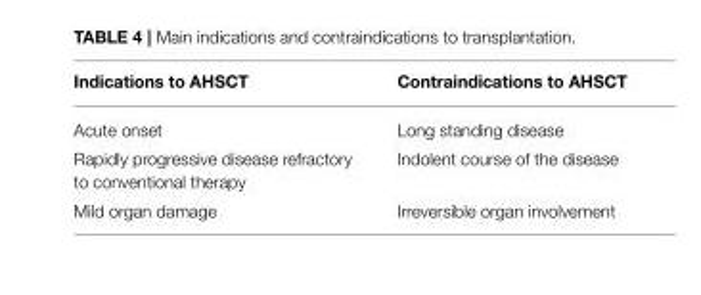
<table><thead><tr><td>Indications to AHSCT</td><td>Contraindications to AHSCT</td></tr></thead><tbody><tr><td>Acute onset</td><td>Long standing disease</td></tr><tr><td>Rapidly progressive disease refractory to conventional therapy</td><td>Indolent course of the disease</td></tr><tr><td>Mild organ damage</td><td>Irreversible organ involvement</td></tr></tbody></table>